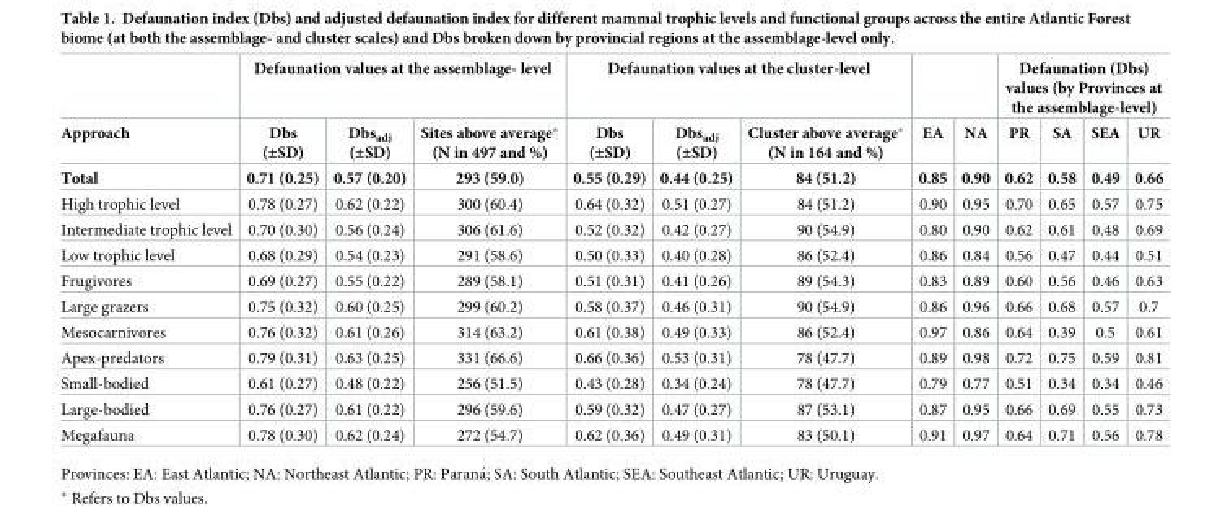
<table><thead><tr><td rowspan="3">Approach Total</td><td colspan="3">Defaunation values at the assemblage- level</td><td colspan="3">Defaunation values at the cluster-level</td><td rowspan="3">EA 0.85</td><td rowspan="3">NA 0.90</td><td colspan="4">Defaunation (Dbs) values (by Provinces at the assemblage-level)</td></tr><tr><td rowspan="2">Dbs (±SD) 0.71 (0.25)</td><td rowspan="2">Dbs<sub>adj</sub> (±SD) 0.57 (0.20)</td><td rowspan="2">Sites above average* (N in 497 and %) 293 (59.0)</td><td rowspan="2">Dbs (±SD) 0.55 (0.29)</td><td rowspan="2">Dbs<sub>adj</sub> (±SD) 0.44 (0.25)</td><td rowspan="2">Cluster above average* (N in 164 and %) 84 (51.2)</td><td rowspan="2">PR 0.62</td><td rowspan="2">SA 0.58</td><td rowspan="2">SEA 0.49</td><td rowspan="2">UR 0.66</td></tr><tr></tr></thead><tbody><tr><td>High trophic level</td><td>0.78 (0.27)</td><td>0.62 (0.22)</td><td>300 (60.4)</td><td>0.64 (0.32)</td><td>0.51 (0.27)</td><td>84 (51.2)</td><td>0.90</td><td>0.95</td><td>0.70</td><td>0.65</td><td>0.57</td><td>0.75</td></tr><tr><td>Intermediate trophic level</td><td>0.70 (0.30)</td><td>0.56 (0.24)</td><td>306 (61.6)</td><td>0.52 (0.32)</td><td>0.42 (0.27)</td><td>90 (54.9)</td><td>0.80</td><td>0.90</td><td>0.62</td><td>0.61</td><td>0.48</td><td>0.69</td></tr><tr><td>Low trophic level</td><td>0.68 (0.29)</td><td>0.54 (0.23)</td><td>291 (58.6)</td><td>0.50 (0.33)</td><td>0.40 (0.28)</td><td>86 (52.4)</td><td>0.86</td><td>0.84</td><td>0.56</td><td>0.47</td><td>0.44</td><td>0.51</td></tr><tr><td>Frugivores</td><td>0.69 (0.27)</td><td>0.55 (0.22)</td><td>289 (58.1)</td><td>0.51 (0.31)</td><td>0.41 (0.26)</td><td>89 (54.3)</td><td>0.83</td><td>0.89</td><td>0.60</td><td>0.56</td><td>0.46</td><td>0.63</td></tr><tr><td>Large grazers</td><td>0.75 (0.32)</td><td>0.60 (0.25)</td><td>299 (60.2)</td><td>0.58 (0.37)</td><td>0.46 (0.31)</td><td>90 (54.9)</td><td>0.86</td><td>0.96</td><td>0.66</td><td>0.68</td><td>0.57</td><td>0.7</td></tr><tr><td>Mesocarnivores</td><td>0.76 (0.32)</td><td>0.61 (0.26)</td><td>314 (63.2)</td><td>0.61 (0.38)</td><td>0.49 (0.33)</td><td>86 (52.4)</td><td>0.97</td><td>0.86</td><td>0.64</td><td>0.39</td><td>0.5</td><td>0.61</td></tr><tr><td>Apex-predators</td><td>0.79 (0.31)</td><td>0.63 (0.25)</td><td>331 (66.6)</td><td>0.66 (0.36)</td><td>0.53 (0.31)</td><td>78 (47.7)</td><td>0.89</td><td>0.98</td><td>0.72</td><td>0.75</td><td>0.59</td><td>0.81</td></tr><tr><td>Small-bodied</td><td>0.61 (0.27)</td><td>0.48 (0.22)</td><td>256 (51.5)</td><td>0.43 (0.28)</td><td>0.34 (0.24)</td><td>78 (47.7)</td><td>0.79</td><td>0.77</td><td>0.51</td><td>0.34</td><td>0.34</td><td>0.46</td></tr><tr><td>Large-bodied</td><td>0.76 (0.27)</td><td>0.61 (0.22)</td><td>296 (59.6)</td><td>0.59 (0.32)</td><td>0.47 (0.27)</td><td>87 (53.1)</td><td>0.87</td><td>0.95</td><td>0.66</td><td>0.69</td><td>0.55</td><td>0.73</td></tr><tr><td>Megafauna</td><td>0.78 (0.30)</td><td>0.62 (0.24)</td><td>272 (54.7)</td><td>0.62 (0.36)</td><td>0.49 (0.31)</td><td>83 (50.1)</td><td>0.91</td><td>0.97</td><td>0.64</td><td>0.71</td><td>0.56</td><td>0.78</td></tr></tbody></table>